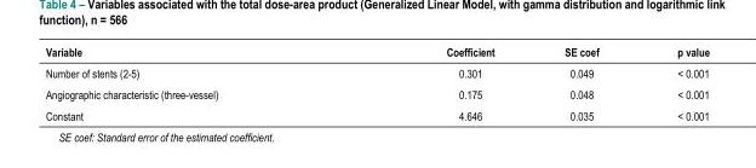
<table><thead><tr><td>Variable</td><td>Coefficient</td><td>SE coef</td><td>p value</td></tr></thead><tbody><tr><td>Number of stents (2-5)</td><td>0.301</td><td>0.049</td><td>&lt; 0.001</td></tr><tr><td>Angiographic characteristic (three-vessel)</td><td>0.175</td><td>0.048</td><td>&lt; 0.001</td></tr><tr><td>Constant</td><td>4.646</td><td>0.035</td><td>&lt; 0.001</td></tr></tbody></table>